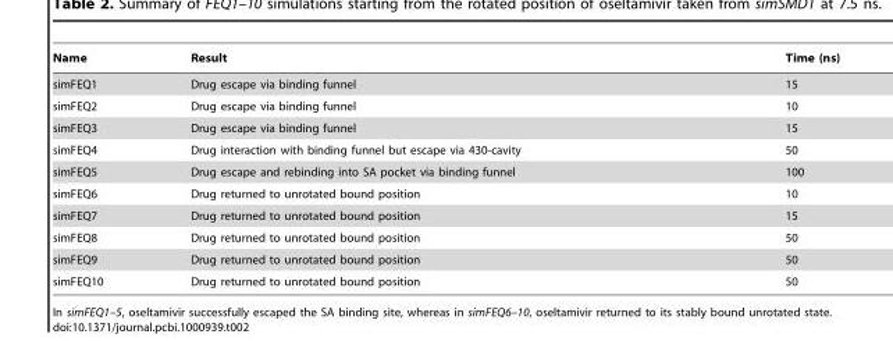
<table><thead><tr><td>Name</td><td>Result</td><td>Time (ns)</td></tr></thead><tbody><tr><td>simFEQ1</td><td>Drug escape via binding funnel</td><td>15</td></tr><tr><td>simFEQ2</td><td>Drug escape via binding funnel</td><td>10</td></tr><tr><td>simFEQ3</td><td>Drug escape via binding funnel</td><td>15</td></tr><tr><td>simFEQ4</td><td>Drug interaction with binding funnel but escape via 430-cavity</td><td>50</td></tr><tr><td>simFEQ5</td><td>Drug escape and rebinding into SA pocket via binding funnel</td><td>100</td></tr><tr><td>simFEQ6</td><td>Drug returned to unrotated bound position</td><td>10</td></tr><tr><td>simFEQ7</td><td>Drug returned to unrotated bound position</td><td>15</td></tr><tr><td>simFEQ8</td><td>Drug returned to unrotated bound position</td><td>50</td></tr><tr><td>simFEQ9</td><td>Drug returned to unrotated bound position</td><td>50</td></tr><tr><td>simFEQ10</td><td>Drug returned to unrotated bound position</td><td>50</td></tr></tbody></table>